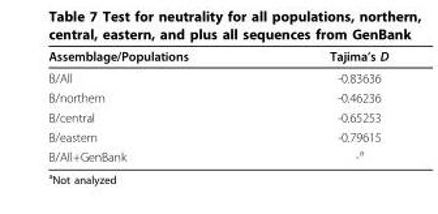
<table><thead><tr><td>Assemblage/Populations</td><td>Tajima’s D</td></tr></thead><tbody><tr><td>B/All</td><td>-0.83636</td></tr><tr><td>B/northern</td><td>-0.46236</td></tr><tr><td>B/central</td><td>-0.65253</td></tr><tr><td>B/eastern</td><td>-0.79615</td></tr><tr><td>B/All+GenBank</td><td>-<sup>a</sup></td></tr></tbody></table>